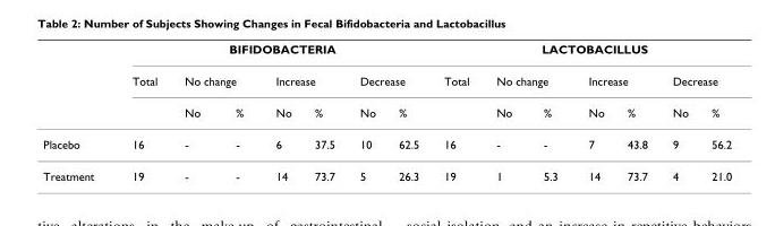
<table><thead><tr><td rowspan="3"></td><td colspan="7">BIFIDOBACTERIA</td><td colspan="7">LACTOBACILLUS</td></tr><tr><td rowspan="2">Total</td><td colspan="2">No change</td><td colspan="2">Increase</td><td colspan="2">Decrease</td><td rowspan="2">Total</td><td colspan="2">No change</td><td colspan="2">Increase</td><td colspan="2">Decrease</td></tr><tr><td>No</td><td>%</td><td>No</td><td>%</td><td>No</td><td>%</td><td>No</td><td>%</td><td>No</td><td>%</td><td>No</td><td>%</td></tr></thead><tbody><tr><td>Placebo</td><td>16</td><td>-</td><td>-</td><td>6</td><td>37.5</td><td>10</td><td>62.5</td><td>16</td><td>-</td><td>-</td><td>7</td><td>43.8</td><td>9</td><td>56.2</td></tr><tr><td>Treatment</td><td>19</td><td>-</td><td>-</td><td>14</td><td>73.7</td><td>5</td><td>26.3</td><td>19</td><td>1</td><td>5.3</td><td>14</td><td>73.7</td><td>4</td><td>21.0</td></tr></tbody></table>